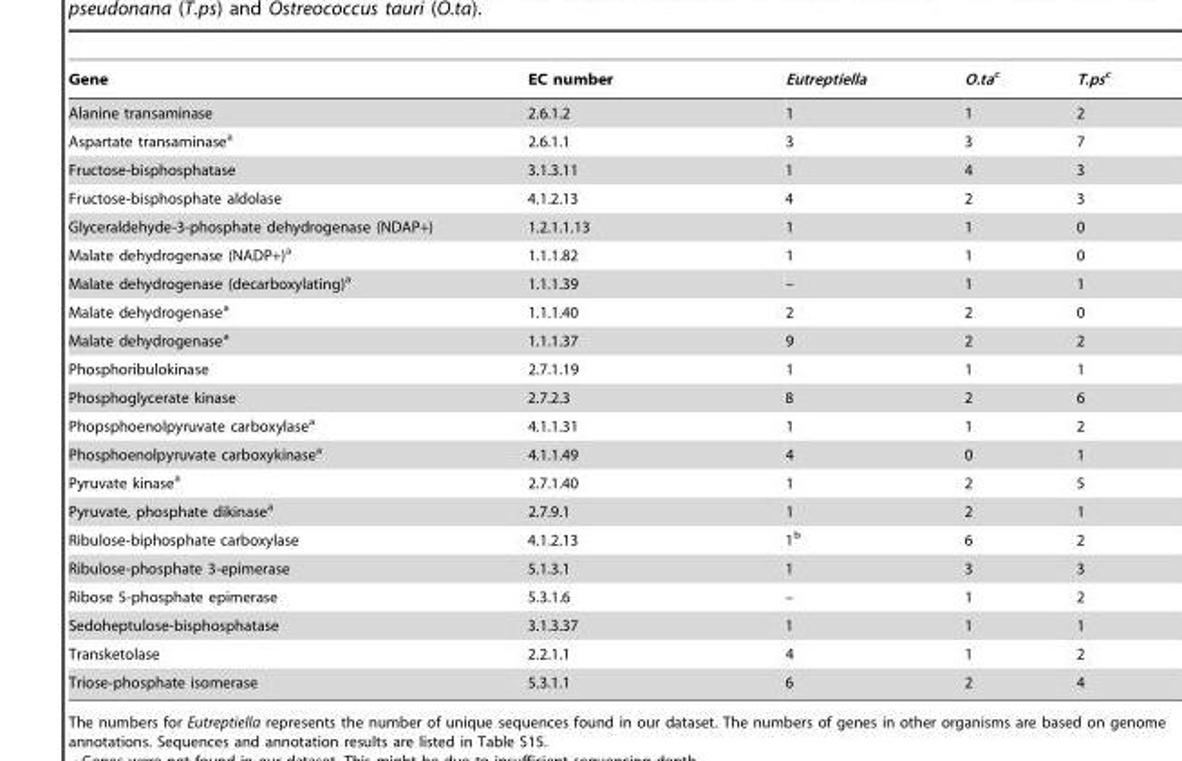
<table><thead><tr><td>Gene</td><td>EC number</td><td>Eutreptiella</td><td>O.tac</td><td>T.psc</td></tr></thead><tbody><tr><td>Alanine transaminase</td><td>2.6.1.2</td><td>1</td><td>1</td><td>2</td></tr><tr><td>Aspartate transaminase<sup>a</sup></td><td>2.6.1.1</td><td>3</td><td>3</td><td>7</td></tr><tr><td>Fructose-bisphosphatase</td><td>3.1.3.11</td><td>1</td><td>4</td><td>3</td></tr><tr><td>Fructose-bisphosphate aldolase</td><td>4.1.2.13</td><td>4</td><td>2</td><td>3</td></tr><tr><td>Glyceraldehyde-3-phosphate dehydrogenase (NDAP+)</td><td>1.2.1.1.13</td><td>1</td><td>1</td><td>0</td></tr><tr><td>Malate dehydrogenase (NADP+)<sup>a</sup></td><td>1.1.1.82</td><td>1</td><td>1</td><td>0</td></tr><tr><td>Malate dehydrogenase (decarboxylating)<sup>a</sup></td><td>1.1.1.39</td><td>–</td><td>1</td><td>1</td></tr><tr><td>Malate dehydrogenase<sup>a</sup></td><td>1.1.1.40</td><td>2</td><td>2</td><td>0</td></tr><tr><td>Malate dehydrogenase<sup>a</sup></td><td>1.1.1.37</td><td>9</td><td>2</td><td>2</td></tr><tr><td>Phosphoribulokinase</td><td>2.7.1.19</td><td>1</td><td>1</td><td>1</td></tr><tr><td>Phosphoglycerate kinase</td><td>2.7.2.3</td><td>8</td><td>2</td><td>6</td></tr><tr><td>Phopsphoenolpyruvate carboxylase<sup>a</sup></td><td>4.1.1.31</td><td>1</td><td>1</td><td>2</td></tr><tr><td>Phosphoenolpyruvate carboxykinase<sup>a</sup></td><td>4.1.1.49</td><td>4</td><td>0</td><td>1</td></tr><tr><td>Pyruvate kinase<sup>a</sup></td><td>2.7.1.40</td><td>1</td><td>2</td><td>5</td></tr><tr><td>Pyruvate, phosphate dikinase<sup>a</sup></td><td>2.7.9.1</td><td>1</td><td>2</td><td>1</td></tr><tr><td>Ribulose-biphosphate carboxylase</td><td>4.1.2.13</td><td>1<sup>b</sup></td><td>6</td><td>2</td></tr><tr><td>Ribulose-phosphate 3-epimerase</td><td>5.1.3.1</td><td>1</td><td>3</td><td>3</td></tr><tr><td>Ribose 5-phosphate epimerase</td><td>5.3.1.6</td><td>–</td><td>1</td><td>2</td></tr><tr><td>Sedoheptulose-bisphosphatase</td><td>3.1.3.37</td><td>1</td><td>1</td><td>1</td></tr><tr><td>Transketolase</td><td>2.2.1.1</td><td>4</td><td>1</td><td>2</td></tr><tr><td>Triose-phosphate isomerase</td><td>5.3.1.1</td><td>6</td><td>2</td><td>4</td></tr></tbody></table>